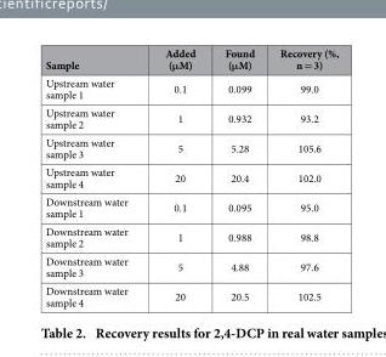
<table><thead><tr><td>Sample</td><td>Added (μM)</td><td>Found (μM)</td><td>Recovery (%, n = 3)</td></tr></thead><tbody><tr><td>Upstream water sample 1</td><td>0.1</td><td>0.099</td><td>99.0</td></tr><tr><td>Upstream water sample 2</td><td>1</td><td>0.932</td><td>93.2</td></tr><tr><td>Upstream water sample 3</td><td>5</td><td>5.28</td><td>105.6</td></tr><tr><td>Upstream water sample 4</td><td>20</td><td>20.4</td><td>102.0</td></tr><tr><td>Downstream water sample 1</td><td>0.1</td><td>0.095</td><td>95.0</td></tr><tr><td>Downstream water sample 2</td><td>1</td><td>0.988</td><td>98.8</td></tr><tr><td>Downstream water sample 3</td><td>5</td><td>4.88</td><td>97.6</td></tr><tr><td>Downstream water sample 4</td><td>20</td><td>20.5</td><td>102.5</td></tr></tbody></table>